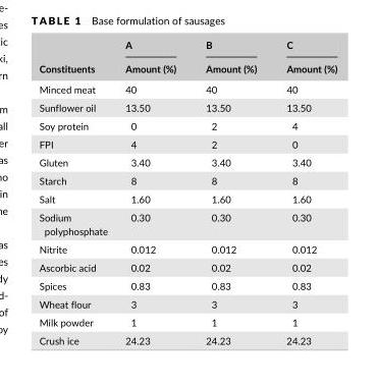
<table><thead><tr><td rowspan="2">Constituents</td><td rowspan="2">A Amount (%)</td><td rowspan="2">B Amount (%)</td><td rowspan="2">C Amount (%)</td></tr><tr></tr></thead><tbody><tr><td>Minced meat</td><td>40</td><td>40</td><td>40</td></tr><tr><td>Sunflower oil</td><td>13.50</td><td>13.50</td><td>13.50</td></tr><tr><td>Soy protein</td><td>0</td><td>2</td><td>4</td></tr><tr><td>FPI</td><td>4</td><td>2</td><td>0</td></tr><tr><td>Gluten</td><td>3.40</td><td>3.40</td><td>3.40</td></tr><tr><td>Starch</td><td>8</td><td>8</td><td>8</td></tr><tr><td>Salt</td><td>1.60</td><td>1.60</td><td>1.60</td></tr><tr><td>Sodium polyphosphate</td><td>0.30</td><td>0.30</td><td>0.30</td></tr><tr><td>Nitrite</td><td>0.012</td><td>0.012</td><td>0.012</td></tr><tr><td>Ascorbic acid</td><td>0.02</td><td>0.02</td><td>0.02</td></tr><tr><td>Spices</td><td>0.83</td><td>0.83</td><td>0.83</td></tr><tr><td>Wheat flour</td><td>3</td><td>3</td><td>3</td></tr><tr><td>Milk powder</td><td>1</td><td>1</td><td>1</td></tr><tr><td>Crush ice</td><td>24.23</td><td>24.23</td><td>24.23</td></tr></tbody></table>